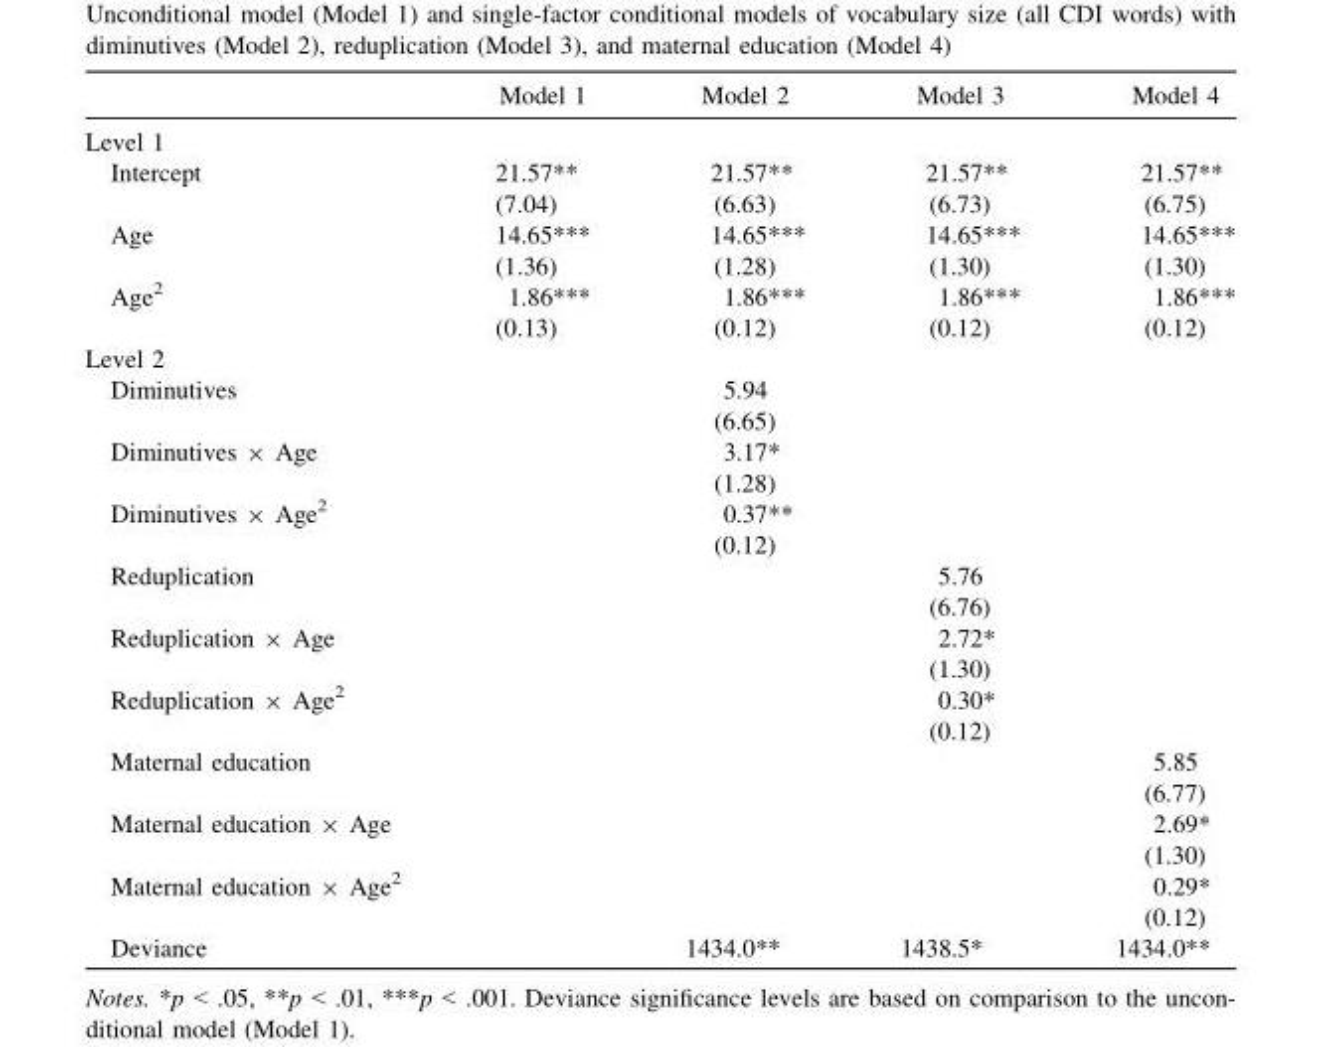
<table><thead><tr><td></td><td>Model 1</td><td>Model 2</td><td>Model 3</td><td>Model 4</td></tr></thead><tbody><tr><td colspan="5">Level 1</td></tr><tr><td>Intercept</td><td>21.57** (7.04)</td><td>21.57** (6.63)</td><td>21.57** (6.73)</td><td>21.57** (6.75)</td></tr><tr><td>Age</td><td>14.65*** (1.36)</td><td>14.65*** (1.28)</td><td>14.65*** (1.30)</td><td>14.65*** (1.30)</td></tr><tr><td>Age<sup>2</sup></td><td>1.86*** (0.13)</td><td>1.86*** (0.12)</td><td>1.86*** (0.12)</td><td>1.86*** (0.12)</td></tr><tr><td colspan="5">Level 2</td></tr><tr><td>Diminutives</td><td></td><td>5.94 (6.65)</td><td></td><td></td></tr><tr><td>Diminutives × Age</td><td></td><td>3.17* (1.28)</td><td></td><td></td></tr><tr><td>Diminutives × Age<sup>2</sup></td><td></td><td>0.37** (0.12)</td><td></td><td></td></tr><tr><td>Reduplication</td><td></td><td></td><td>5.76 (6.76)</td><td></td></tr><tr><td>Reduplication × Age</td><td></td><td></td><td>2.72* (1.30)</td><td></td></tr><tr><td>Reduplication × Age<sup>2</sup></td><td></td><td></td><td>0.30* (0.12)</td><td></td></tr><tr><td>Maternal education</td><td></td><td></td><td></td><td>5.85 (6.77)</td></tr><tr><td>Maternal education × Age</td><td></td><td></td><td></td><td>2.69* (1.30)</td></tr><tr><td>Maternal education × Age<sup>2</sup></td><td></td><td></td><td></td><td>0.29* (0.12)</td></tr><tr><td>Deviance</td><td></td><td>1434.0**</td><td>1438.5*</td><td>1434.0**</td></tr></tbody></table>